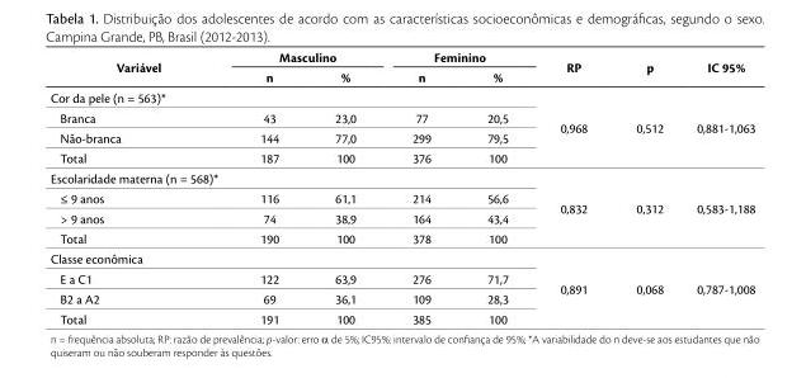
<table><thead><tr><td rowspan="2">Variável</td><td colspan="2">Masculino</td><td colspan="2">Feminino</td><td rowspan="2">RP</td><td rowspan="2">p</td><td rowspan="2">IC 95%</td></tr><tr><td>n</td><td>%</td><td>n</td><td>%</td></tr></thead><tbody><tr><td colspan="5">Cor da pele (n = 563)*</td><td rowspan="4">0,968</td><td rowspan="4">0,512</td><td rowspan="4">0,881-1,063</td></tr><tr><td>Branca</td><td>43</td><td>23,0</td><td>77</td><td>20,5</td></tr><tr><td>Não-branca</td><td>144</td><td>77,0</td><td>299</td><td>79,5</td></tr><tr><td>Total</td><td>187</td><td>100</td><td>376</td><td>100</td></tr><tr><td colspan="5">Escolaridade materna (n = 568)*</td><td rowspan="4">0,832</td><td rowspan="4">0,312</td><td rowspan="4">0,583-1,188</td></tr><tr><td>≤ 9 anos</td><td>116</td><td>61,1</td><td>214</td><td>56,6</td></tr><tr><td>&gt; 9 anos</td><td>74</td><td>38,9</td><td>164</td><td>43,4</td></tr><tr><td>Total</td><td>190</td><td>100</td><td>378</td><td>100</td></tr><tr><td colspan="5">Classe econômica</td><td rowspan="4">0,891</td><td rowspan="4">0,068</td><td rowspan="4">0,787-1,008</td></tr><tr><td>E a C1</td><td>122</td><td>63,9</td><td>276</td><td>71,7</td></tr><tr><td>B2 a A2</td><td>69</td><td>36,1</td><td>109</td><td>28,3</td></tr><tr><td>Total</td><td>191</td><td>100</td><td>385</td><td>100</td></tr></tbody></table>